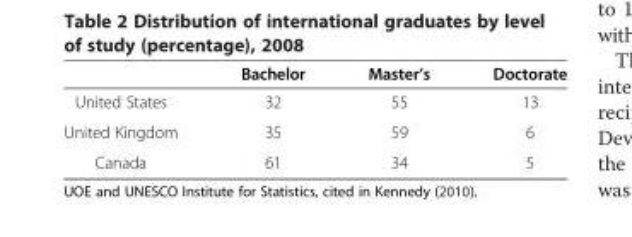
<table><thead><tr><td></td><td>Bachelor</td><td>Master’s</td><td>Doctorate</td></tr></thead><tbody><tr><td>United States</td><td>32</td><td>55</td><td>13</td></tr><tr><td>United Kingdom</td><td>35</td><td>59</td><td>6</td></tr><tr><td>Canada</td><td>61</td><td>34</td><td>5</td></tr></tbody></table>